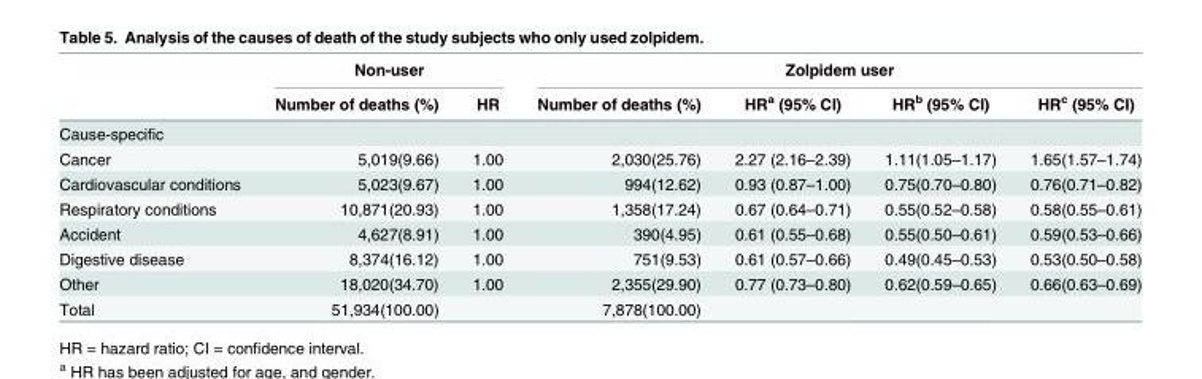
<table><thead><tr><td rowspan="2"></td><td colspan="2">Non-user</td><td colspan="4">Zolpidem user</td></tr><tr><td>Number of deaths (%)</td><td>HR</td><td>Number of deaths (%)</td><td>HR<sup>a</sup> (95% CI)</td><td>HR<sup>b</sup> (95% CI)</td><td>HR<sup>c</sup> (95% CI)</td></tr></thead><tbody><tr><td colspan="7">Cause-specific</td></tr><tr><td>Cancer</td><td>5,019(9.66)</td><td>1.00</td><td>2,030(25.76)</td><td>2.27 (2.16–2.39)</td><td>1.11(1.05–1.17)</td><td>1.65(1.57–1.74)</td></tr><tr><td>Cardiovascular conditions</td><td>5,023(9.67)</td><td>1.00</td><td>994(12.62)</td><td>0.93 (0.87–1.00)</td><td>0.75(0.70–0.80)</td><td>0.76(0.71–0.82)</td></tr><tr><td>Respiratory conditions</td><td>10,871(20.93)</td><td>1.00</td><td>1,358(17.24)</td><td>0.67 (0.64–0.71)</td><td>0.55(0.52–0.58)</td><td>0.58(0.55–0.61)</td></tr><tr><td>Accident</td><td>4,627(8.91)</td><td>1.00</td><td>390(4.95)</td><td>0.61 (0.55–0.68)</td><td>0.55(0.50–0.61)</td><td>0.59(0.53–0.66)</td></tr><tr><td>Digestive disease</td><td>8,374(16.12)</td><td>1.00</td><td>751(9.53)</td><td>0.61 (0.57–0.66)</td><td>0.49(0.45–0.53)</td><td>0.53(0.50–0.58)</td></tr><tr><td>Other</td><td>18,020(34.70)</td><td>1.00</td><td>2,355(29.90)</td><td>0.77 (0.73–0.80)</td><td>0.62(0.59–0.65)</td><td>0.66(0.63–0.69)</td></tr><tr><td>Total</td><td>51,934(100.00)</td><td></td><td>7,878(100.00)</td><td></td><td></td><td></td></tr></tbody></table>